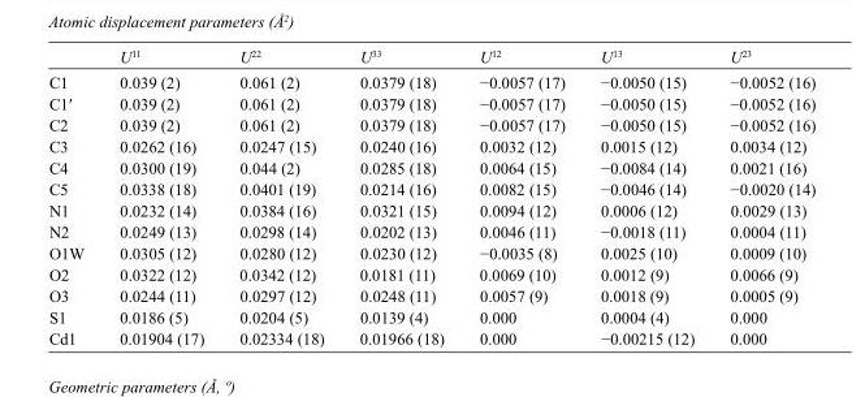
<table><thead><tr><td></td><td>U<sup>11</sup></td><td>U<sup>22</sup></td><td>U<sup>33</sup></td><td>U<sup>12</sup></td><td>U<sup>13</sup></td><td>U<sup>23</sup></td></tr></thead><tbody><tr><td>C1</td><td>0.039 (2)</td><td>0.061 (2)</td><td>0.0379 (18)</td><td>−0.0057 (17)</td><td>−0.0050 (15)</td><td>−0.0052 (16)</td></tr><tr><td>C1′</td><td>0.039 (2)</td><td>0.061 (2)</td><td>0.0379 (18)</td><td>−0.0057 (17)</td><td>−0.0050 (15)</td><td>−0.0052 (16)</td></tr><tr><td>C2</td><td>0.039 (2)</td><td>0.061 (2)</td><td>0.0379 (18)</td><td>−0.0057 (17)</td><td>−0.0050 (15)</td><td>−0.0052 (16)</td></tr><tr><td>C3</td><td>0.0262 (16)</td><td>0.0247 (15)</td><td>0.0240 (16)</td><td>0.0032 (12)</td><td>0.0015 (12)</td><td>0.0034 (12)</td></tr><tr><td>C4</td><td>0.0300 (19)</td><td>0.044 (2)</td><td>0.0285 (18)</td><td>0.0064 (15)</td><td>−0.0084 (14)</td><td>0.0021 (16)</td></tr><tr><td>C5</td><td>0.0338 (18)</td><td>0.0401 (19)</td><td>0.0214 (16)</td><td>0.0082 (15)</td><td>−0.0046 (14)</td><td>−0.0020 (14)</td></tr><tr><td>N1</td><td>0.0232 (14)</td><td>0.0384 (16)</td><td>0.0321 (15)</td><td>0.0094 (12)</td><td>0.0006 (12)</td><td>0.0029 (13)</td></tr><tr><td>N2</td><td>0.0249 (13)</td><td>0.0298 (14)</td><td>0.0202 (13)</td><td>0.0046 (11)</td><td>−0.0018 (11)</td><td>0.0004 (11)</td></tr><tr><td>O1W</td><td>0.0305 (12)</td><td>0.0280 (12)</td><td>0.0230 (12)</td><td>−0.0035 (8)</td><td>0.0025 (10)</td><td>0.0009 (10)</td></tr><tr><td>O2</td><td>0.0322 (12)</td><td>0.0342 (12)</td><td>0.0181 (11)</td><td>0.0069 (10)</td><td>0.0012 (9)</td><td>0.0066 (9)</td></tr><tr><td>O3</td><td>0.0244 (11)</td><td>0.0297 (12)</td><td>0.0248 (11)</td><td>0.0057 (9)</td><td>0.0018 (9)</td><td>0.0005 (9)</td></tr><tr><td>S1</td><td>0.0186 (5)</td><td>0.0204 (5)</td><td>0.0139 (4)</td><td>0.000</td><td>0.0004 (4)</td><td>0.000</td></tr><tr><td>Cd1</td><td>0.01904 (17)</td><td>0.02334 (18)</td><td>0.01966 (18)</td><td>0.000</td><td>−0.00215 (12)</td><td>0.000</td></tr></tbody></table>